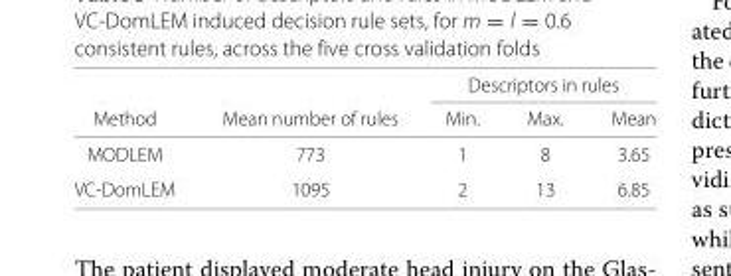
<table><thead><tr><td rowspan="2">Method</td><td rowspan="2">Mean number of rules</td><td colspan="3">Descriptors in rules</td></tr><tr><td>Min.</td><td>Max.</td><td>Mean</td></tr></thead><tbody><tr><td>MODLEM</td><td>773</td><td>1</td><td>8</td><td>3.65</td></tr><tr><td>VC-DomLEM</td><td>1095</td><td>2</td><td>13</td><td>6.85</td></tr></tbody></table>